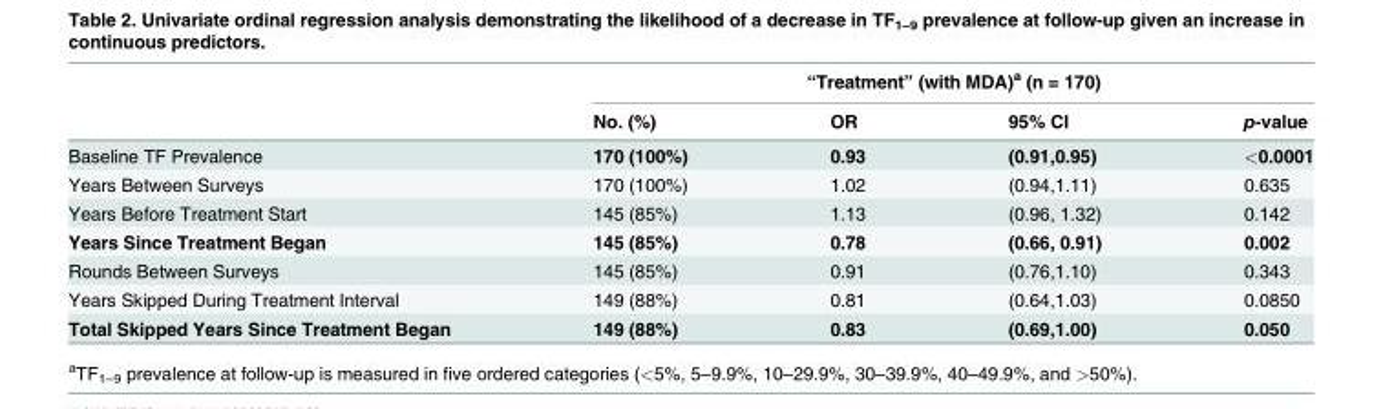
<table><thead><tr><td rowspan="2"></td><td colspan="4">“Treatment” (with MDA)<sup>a</sup> (n = 170)</td></tr><tr><td>No. (%)</td><td>OR</td><td>95% CI</td><td>p-value</td></tr></thead><tbody><tr><td>Baseline TF Prevalence</td><td>170 (100%)</td><td>0.93</td><td>(0.91,0.95)</td><td>&lt;0.0001</td></tr><tr><td>Years Between Surveys</td><td>170 (100%)</td><td>1.02</td><td>(0.94,1.11)</td><td>0.635</td></tr><tr><td>Years Before Treatment Start</td><td>145 (85%)</td><td>1.13</td><td>(0.96, 1.32)</td><td>0.142</td></tr><tr><td>Years Since Treatment Began</td><td>145 (85%)</td><td>0.78</td><td>(0.66, 0.91)</td><td>0.002</td></tr><tr><td>Rounds Between Surveys</td><td>145 (85%)</td><td>0.91</td><td>(0.76,1.10)</td><td>0.343</td></tr><tr><td>Years Skipped During Treatment Interval</td><td>149 (88%)</td><td>0.81</td><td>(0.64,1.03)</td><td>0.0850</td></tr><tr><td>Total Skipped Years Since Treatment Began</td><td>149 (88%)</td><td>0.83</td><td>(0.69,1.00)</td><td>0.050</td></tr></tbody></table>